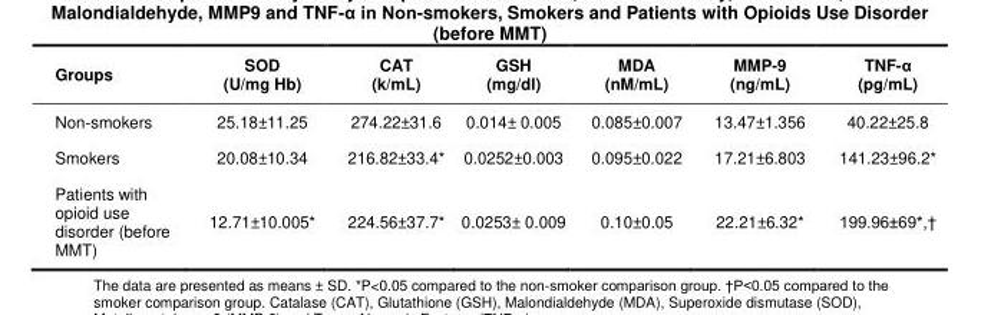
<table><thead><tr><td>Groups</td><td>SOD (U/mg Hb)</td><td>CAT (k/mL)</td><td>GSH (mg/dl)</td><td>MDA (nM/mL)</td><td>MMP-9 (ng/mL)</td><td>TNF-α (pg/mL)</td></tr></thead><tbody><tr><td>Non-smokers</td><td>25.18±11.25</td><td>274.22±31.6</td><td>0.014± 0.005</td><td>0.085±0.007</td><td>13.47±1.356</td><td>40.22±25.8</td></tr><tr><td>Smokers</td><td>20.08±10.34</td><td>216.82±33.4*</td><td>0.0252±0.003</td><td>0.095±0.022</td><td>17.21±6.803</td><td>141.23±96.2*</td></tr><tr><td>Patients with opioid use disorder (before MMT)</td><td>12.71±10.005*</td><td>224.56±37.7*</td><td>0.0253± 0.009</td><td>0.10±0.05</td><td>22.21±6.32*</td><td>199.96±69*,†</td></tr></tbody></table>